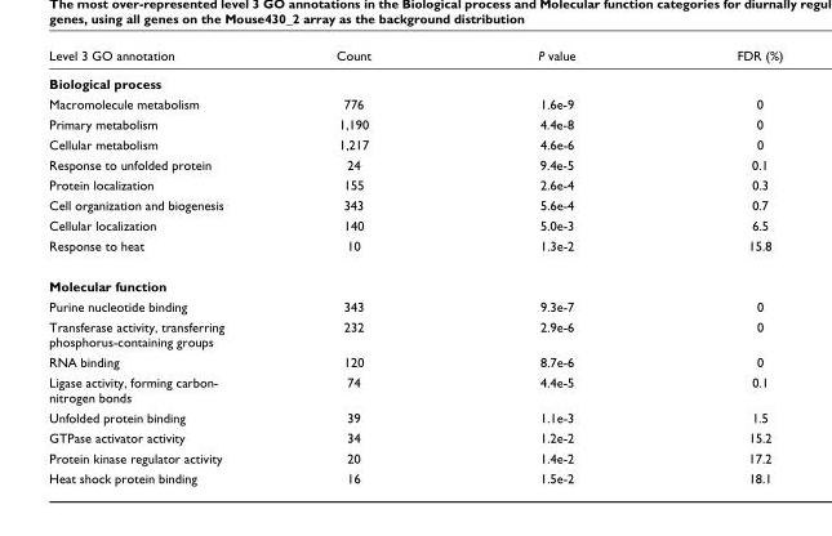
<table><thead><tr><td>Level 3 GO annotation</td><td>Count</td><td>P value</td><td>FDR (%)</td></tr></thead><tbody><tr><td colspan="4">Biological process</td></tr><tr><td>Macromolecule metabolism</td><td>776</td><td>1.6e-9</td><td>0</td></tr><tr><td>Primary metabolism</td><td>1,190</td><td>4.4e-8</td><td>0</td></tr><tr><td>Cellular metabolism</td><td>1,217</td><td>4.6e-6</td><td>0</td></tr><tr><td>Response to unfolded protein</td><td>24</td><td>9.4e-5</td><td>0.1</td></tr><tr><td>Protein localization</td><td>155</td><td>2.6e-4</td><td>0.3</td></tr><tr><td>Cell organization and biogenesis</td><td>343</td><td>5.6e-4</td><td>0.7</td></tr><tr><td>Cellular localization</td><td>140</td><td>5.0e-3</td><td>6.5</td></tr><tr><td>Response to heat</td><td>10</td><td>1.3e-2</td><td>15.8</td></tr><tr><td colspan="4">Molecular function</td></tr><tr><td>Purine nucleotide binding</td><td>343</td><td>9.3e-7</td><td>0</td></tr><tr><td>Transferase activity, transferring phosphorus-containing groups</td><td>232</td><td>2.9e-6</td><td>0</td></tr><tr><td>RNA binding</td><td>120</td><td>8.7e-6</td><td>0</td></tr><tr><td>Ligase activity, forming carbon- nitrogen bonds</td><td>74</td><td>4.4e-5</td><td>0.1</td></tr><tr><td>Unfolded protein binding</td><td>39</td><td>1.1e-3</td><td>1.5</td></tr><tr><td>GTPase activator activity</td><td>34</td><td>1.2e-2</td><td>15.2</td></tr><tr><td>Protein kinase regulator activity</td><td>20</td><td>1.4e-2</td><td>17.2</td></tr><tr><td>Heat shock protein binding</td><td>16</td><td>1.5e-2</td><td>18.1</td></tr></tbody></table>